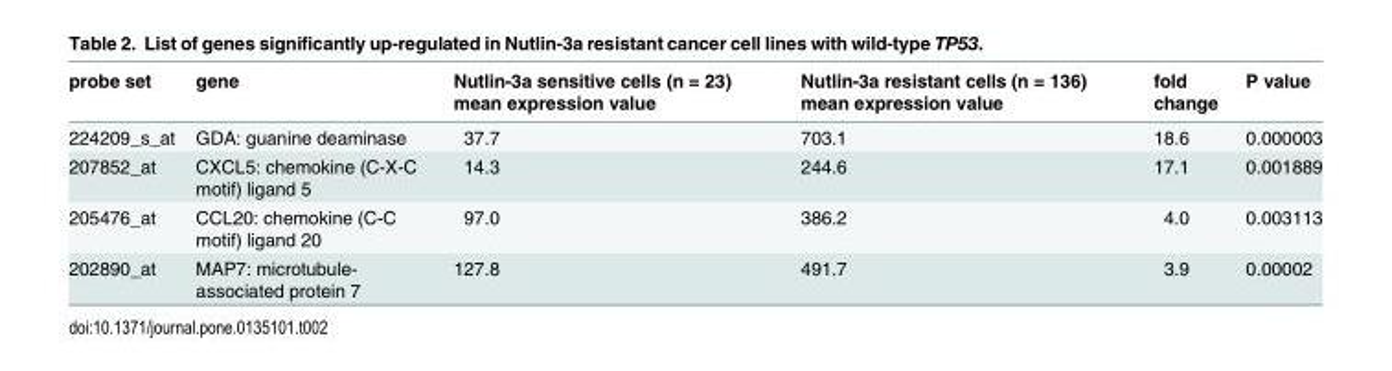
<table><thead><tr><td>probe set</td><td>gene</td><td>Nutlin-3a sensitive cells (n = 23) mean expression value</td><td>Nutlin-3a resistant cells (n = 136) mean expression value</td><td>fold change</td><td>P value</td></tr></thead><tbody><tr><td>224209_s_at</td><td>GDA: guanine deaminase</td><td>37.7</td><td>703.1</td><td>18.6</td><td>0.000003</td></tr><tr><td>207852_at</td><td>CXCL5: chemokine (C-X-C motif) ligand 5</td><td>14.3</td><td>244.6</td><td>17.1</td><td>0.001889</td></tr><tr><td>205476_at</td><td>CCL20: chemokine (C-C motif) ligand 20</td><td>97.0</td><td>386.2</td><td>4.0</td><td>0.003113</td></tr><tr><td>202890_at</td><td>MAP7: microtubule- associated protein 7</td><td>127.8</td><td>491.7</td><td>3.9</td><td>0.00002</td></tr></tbody></table>